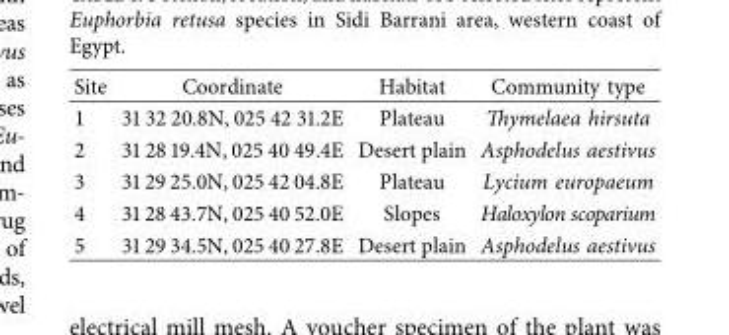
<table><thead><tr><td>Site</td><td>Coordinate</td><td>Habitat</td><td>Community type</td></tr></thead><tbody><tr><td>1</td><td>31 32 20.8N, 025 42 31.2E</td><td>Plateau</td><td>Tymelaea hirsuta</td></tr><tr><td>2</td><td>31 28 19.4N, 025 40 49.4E</td><td>Desert plain</td><td>Asphodelus aestivus</td></tr><tr><td>3</td><td>3129 25.0N, 025 42 04.8E</td><td>Plateau</td><td>Lycium europaeum</td></tr><tr><td>4</td><td>3128 43.7N, 025 40 52.0E</td><td>Slopes</td><td>Haloxylon scoparium</td></tr><tr><td>5</td><td>3129 34.5N, 025 40 27.8E</td><td>Desert plain</td><td>Asphodelus aestivus</td></tr></tbody></table>